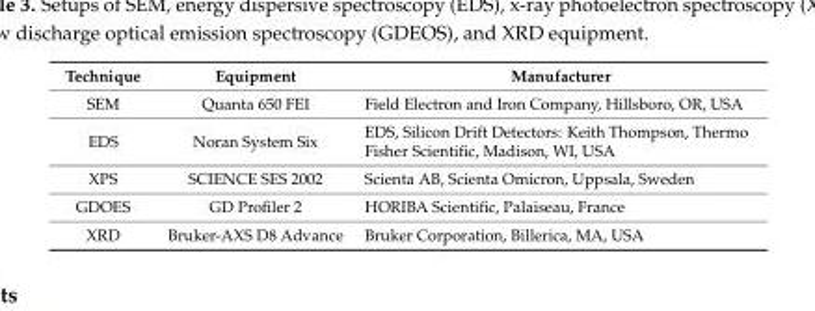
<table><thead><tr><td>Technique</td><td>Equipment</td><td>Manufacturer</td></tr></thead><tbody><tr><td>SEM</td><td>Quanta 650 FEI</td><td>Field Electron and Iron Company, Hillsboro, OR, USA</td></tr><tr><td>EDS</td><td>Noran System Six</td><td>EDS, Silicon Drift Detectors: Keith Thompson, Thermo Fisher Scientific, Madison, WI, USA</td></tr><tr><td>XPS</td><td>SCIENCE SES 2002</td><td>Scienta AB, Scienta Omicron, Uppsala, Sweden</td></tr><tr><td>GDOES</td><td>GD Profiler 2</td><td>HORIBA Scientific, Palaiseau, France</td></tr><tr><td>XRD</td><td>Bruker-AXS D8 Advance</td><td>Bruker Corporation, Billerica, MA, USA</td></tr></tbody></table>